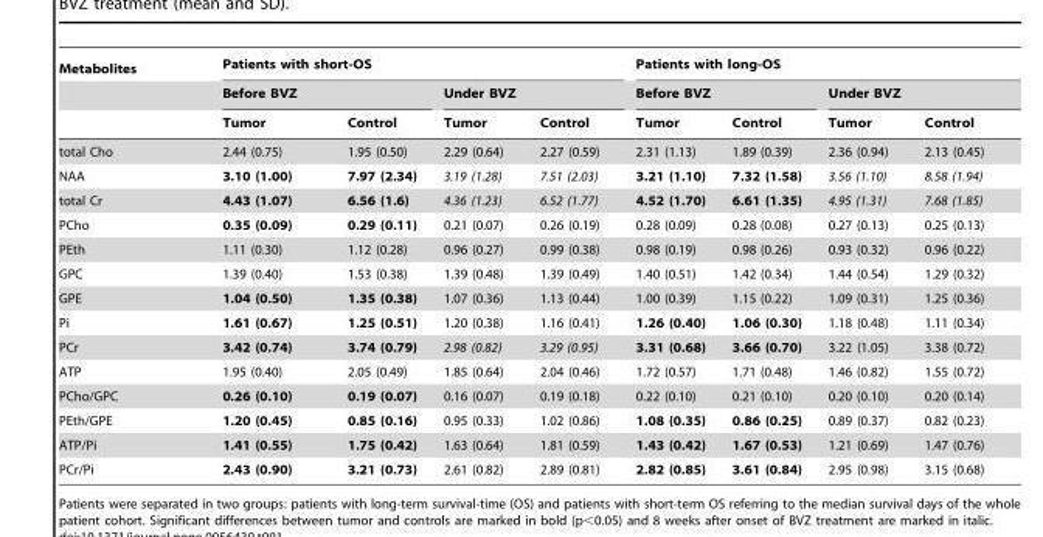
<table><thead><tr><td rowspan="3">Metabolites</td><td colspan="4">Patients with short-OS</td><td colspan="4">Patients with long-OS</td></tr><tr><td colspan="2">Before BVZ</td><td colspan="2">Under BVZ</td><td colspan="2">Before BVZ</td><td colspan="2">Under BVZ</td></tr><tr><td>Tumor</td><td>Control</td><td>Tumor</td><td>Control</td><td>Tumor</td><td>Control</td><td>Tumor</td><td>Control</td></tr></thead><tbody><tr><td>total Cho</td><td>2.44 (0.75)</td><td>1.95 (0.50)</td><td>2.29 (0.64)</td><td>2.27 (0.59)</td><td>2.31 (1.13)</td><td>1.89 (0.39)</td><td>2.36 (0.94)</td><td>2.13 (0.45)</td></tr><tr><td>NAA</td><td>3.10 (1.00)</td><td>7.97 (2.34)</td><td>3.19 (1.28)</td><td>7.51 (2.03)</td><td>3.21 (1.10)</td><td>7.32 (1.58)</td><td>3.56 (1.10)</td><td>8.58 (1.94)</td></tr><tr><td>total Cr</td><td>4.43 (1.07)</td><td>6.56 (1.6)</td><td>4.36 (1.23)</td><td>6.52 (1.77)</td><td>4.52 (1.70)</td><td>6.61 (1.35)</td><td>4.95 (1.31)</td><td>7.68 (1.85)</td></tr><tr><td>PCho</td><td>0.35 (0.09)</td><td>0.29 (0.11)</td><td>0.21 (0.07)</td><td>0.26 (0.19)</td><td>0.28 (0.09)</td><td>0.28 (0.08)</td><td>0.27 (0.13)</td><td>0.25 (0.13)</td></tr><tr><td>PEth</td><td>1.11 (0.30)</td><td>1.12 (0.28)</td><td>0.96 (0.27)</td><td>0.99 (0.38)</td><td>0.98 (0.19)</td><td>0.98 (0.26)</td><td>0.93 (0.32)</td><td>0.96 (0.22)</td></tr><tr><td>GPC</td><td>1.39 (0.40)</td><td>1.53 (0.38)</td><td>1.39 (0.48)</td><td>1.39 (0.49)</td><td>1.40 (0.51)</td><td>1.42 (0.34)</td><td>1.44 (0.54)</td><td>1.29 (0.32)</td></tr><tr><td>GPE</td><td>1.04 (0.50)</td><td>1.35 (0.38)</td><td>1.07 (0.36)</td><td>1.13 (0.44)</td><td>1.00 (0.39)</td><td>1.15 (0.22)</td><td>1.09 (0.31)</td><td>1.25 (0.36)</td></tr><tr><td>Pi</td><td>1.61 (0.67)</td><td>1.25 (0.51)</td><td>1.20 (0.38)</td><td>1.16 (0.41)</td><td>1.26 (0.40)</td><td>1.06 (0.30)</td><td>1.18 (0.48)</td><td>1.11 (0.34)</td></tr><tr><td>PCr</td><td>3.42 (0.74)</td><td>3.74 (0.79)</td><td>2.98 (0.82)</td><td>3.29 (0.95)</td><td>3.31 (0.68)</td><td>3.66 (0.70)</td><td>3.22 (1.05)</td><td>3.38 (0.72)</td></tr><tr><td>ATP</td><td>1.95 (0.40)</td><td>2.05 (0.49)</td><td>1.85 (0.64)</td><td>2.04 (0.46)</td><td>1.72 (0.57)</td><td>1.71 (0.48)</td><td>1.46 (0.82)</td><td>1.55 (0.72)</td></tr><tr><td>PCho/GPC</td><td>0.26 (0.10)</td><td>0.19 (0.07)</td><td>0.16 (0.07)</td><td>0.19 (0.18)</td><td>0.22 (0.10)</td><td>0.21 (0.10)</td><td>0.20 (0.10)</td><td>0.20 (0.14)</td></tr><tr><td>PEth/GPE</td><td>1.20 (0.45)</td><td>0.85 (0.16)</td><td>0.95 (0.33)</td><td>1.02 (0.86)</td><td>1.08 (0.35)</td><td>0.86 (0.25)</td><td>0.89 (0.37)</td><td>0.82 (0.23)</td></tr><tr><td>ATP/Pi</td><td>1.41 (0.55)</td><td>1.75 (0.42)</td><td>1.63 (0.64)</td><td>1.81 (0.59)</td><td>1.43 (0.42)</td><td>1.67 (0.53)</td><td>1.21 (0.69)</td><td>1.47 (0.76)</td></tr><tr><td>PCr/Pi</td><td>2.43 (0.90)</td><td>3.21 (0.73)</td><td>2.61 (0.82)</td><td>2.89 (0.81)</td><td>2.82 (0.85)</td><td>3.61 (0.84)</td><td>2.95 (0.98)</td><td>3.15 (0.68)</td></tr></tbody></table>